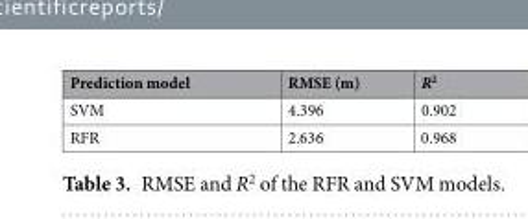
<table><thead><tr><td>Prediction model</td><td>RMSE (m)</td><td>R<sup>2</sup></td></tr></thead><tbody><tr><td>SVM</td><td>4.396</td><td>0.902</td></tr><tr><td>RFR</td><td>2.636</td><td>0.968</td></tr></tbody></table>